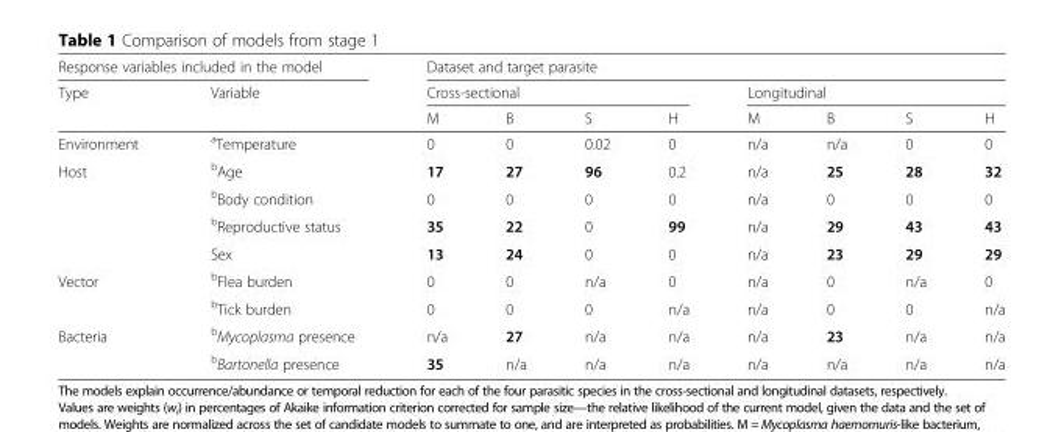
<table><thead><tr><td colspan="2">Response variables included in the model</td><td colspan="8">Dataset and target parasite</td></tr><tr><td rowspan="2">Type</td><td rowspan="2">Variable</td><td colspan="4">Cross-sectional</td><td colspan="4">Longitudinal</td></tr><tr><td>M</td><td>B</td><td>S</td><td>H</td><td>M</td><td>B</td><td>S</td><td>H</td></tr></thead><tbody><tr><td>Environment</td><td><sup>a</sup>Temperature</td><td>0</td><td>0</td><td>0.02</td><td>0</td><td>n/a</td><td>n/a</td><td>0</td><td>0</td></tr><tr><td rowspan="4">Host</td><td><sup>b</sup>Age</td><td>17</td><td>27</td><td>96</td><td>0.2</td><td>n/a</td><td>25</td><td>28</td><td>32</td></tr><tr><td><sup>b</sup>Body condition</td><td>0</td><td>0</td><td>0</td><td>0</td><td>n/a</td><td>0</td><td>0</td><td>0</td></tr><tr><td><sup>b</sup>Reproductive status</td><td>35</td><td>22</td><td>0</td><td>99</td><td>n/a</td><td>29</td><td>43</td><td>43</td></tr><tr><td>Sex</td><td>13</td><td>24</td><td>0</td><td>0</td><td>n/a</td><td>23</td><td>29</td><td>29</td></tr><tr><td rowspan="2">Vector</td><td><sup>b</sup>Flea burden</td><td>0</td><td>0</td><td>n/a</td><td>0</td><td>n/a</td><td>0</td><td>n/a</td><td>0</td></tr><tr><td><sup>b</sup>Tick burden</td><td>0</td><td>0</td><td>0</td><td>n/a</td><td>n/a</td><td>0</td><td>0</td><td>n/a</td></tr><tr><td rowspan="2">Bacteria</td><td><sup>b</sup>Mycoplasma presence</td><td>n/a</td><td>27</td><td>n/a</td><td>n/a</td><td>n/a</td><td>23</td><td>n/a</td><td>n/a</td></tr><tr><td><sup>b</sup>Bartonella presence</td><td>35</td><td>n/a</td><td>n/a</td><td>n/a</td><td>n/a</td><td>n/a</td><td>n/a</td><td>n/a</td></tr></tbody></table>